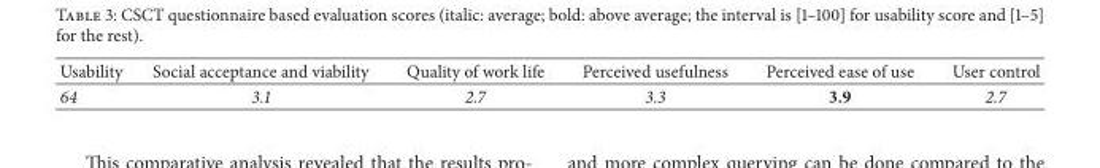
<table><thead><tr><td>Usability</td><td>Social acceptance and viability</td><td>Quality of work life</td><td>Perceived usefulness</td><td>Perceived ease of use</td><td>User control</td></tr></thead><tbody><tr><td>64</td><td>3.1</td><td>2.7</td><td>3.3</td><td>3.9</td><td>2.7</td></tr></tbody></table>